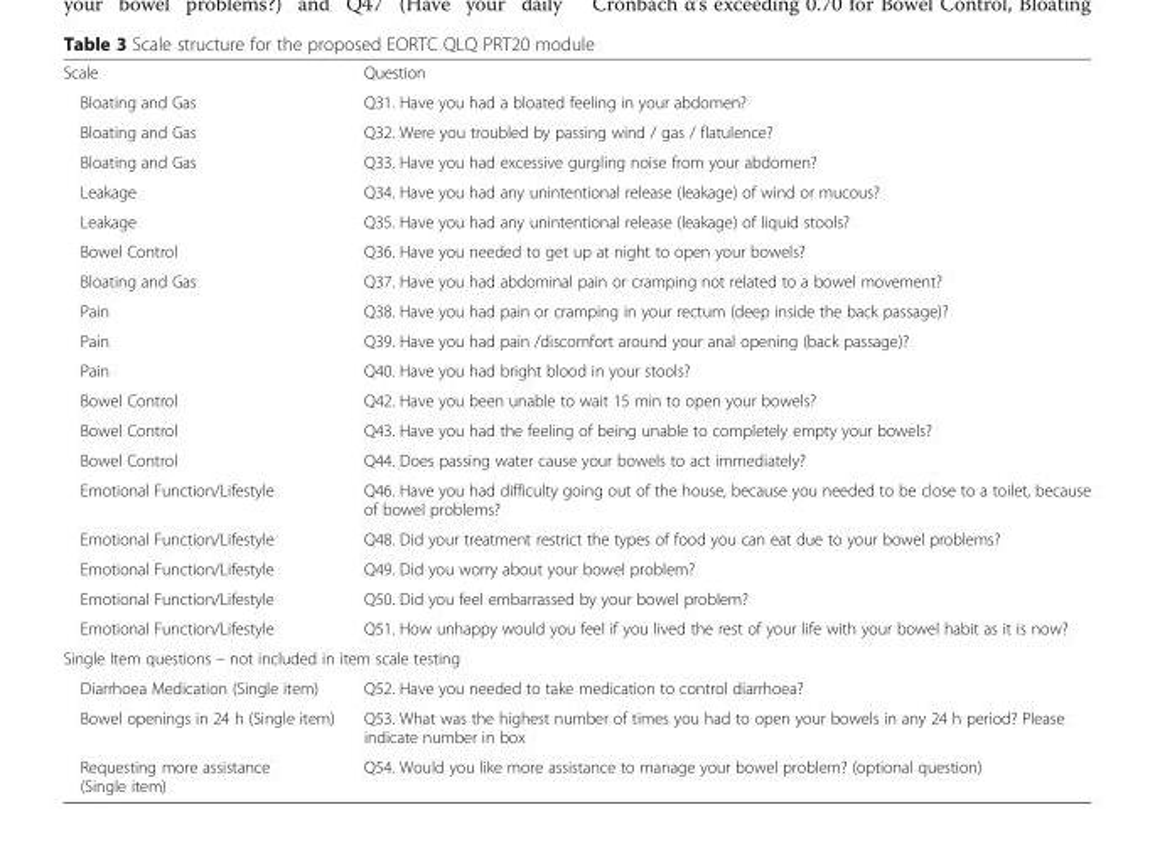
<table><tbody><tr><td>Scale</td><td>Question</td></tr><tr><td>Bloating and Gas</td><td>Q31. Have you had a bloated feeling in your abdomen?</td></tr><tr><td>Bloating and Gas</td><td>Q32. Were you troubled by passing wind / gas / flatulence?</td></tr><tr><td>Bloating and Gas</td><td>Q33. Have you had excessive gurgling noise from your abdomen?</td></tr><tr><td>Leakage</td><td>Q34. Have you had any unintentional release (leakage) of wind or mucous?</td></tr><tr><td>Leakage</td><td>Q35. Have you had any unintentional release (leakage) of liquid stools?</td></tr><tr><td>Bowel Control</td><td>Q36. Have you needed to get up at night to open your bowels?</td></tr><tr><td>Bloating and Gas</td><td>Q37. Have you had abdominal pain or cramping not related to a bowel movement?</td></tr><tr><td>Pain</td><td>Q38. Have you had pain or cramping in your rectum (deep inside the back passage)?</td></tr><tr><td>Pain</td><td>Q39. Have you had pain /discomfort around your anal opening (back passage)?</td></tr><tr><td>Pain</td><td>Q40. Have you had bright blood in your stools?</td></tr><tr><td>Bowel Control</td><td>Q42. Have you been unable to wait 15 min to open your bowels?</td></tr><tr><td>Bowel Control</td><td>Q43. Have you had the feeling of being unable to completely empty your bowels?</td></tr><tr><td>Bowel Control</td><td>Q44. Does passing water cause your bowels to act immediately?</td></tr><tr><td>Emotional Function/Lifestyle</td><td>Q46. Have you had difficulty going out of the house, because you needed to be close to a toilet, because of bowel problems?</td></tr><tr><td>Emotional Function/Lifestyle</td><td>Q48. Did your treatment restrict the types of food you can eat due to your bowel problems?</td></tr><tr><td>Emotional Function/Lifestyle</td><td>Q49. Did you worry about your bowel problem?</td></tr><tr><td>Emotional Function/Lifestyle</td><td>Q50. Did you feel embarrassed by your bowel problem?</td></tr><tr><td>Emotional Function/Lifestyle</td><td>Q51. How unhappy would you feel if you lived the rest of your life with your bowel habit as it is now?</td></tr><tr><td colspan="2">Single Item questions – not included in item scale testing</td></tr><tr><td>Diarrhoea Medication (Single item)</td><td>Q52. Have you needed to take medication to control diarrhoea?</td></tr><tr><td>Bowel openings in 24 h (Single item)</td><td>Q53. What was the highest number of times you had to open your bowels in any 24 h period? Please indicate number in box</td></tr><tr><td>Requesting more assistance (Single item)</td><td>Q54. Would you like more assistance to manage your bowel problem? (optional question)</td></tr></tbody></table>